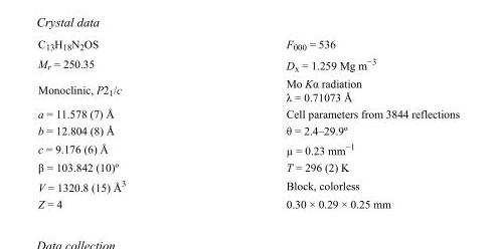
<table><tbody><tr><td>C<sub>13</sub>H<sub>18</sub>N<sub>2</sub>OS</td><td>F<sub>000</sub> = 536</td></tr><tr><td>M<sub>r</sub> = 250.35</td><td>D<sub>x</sub> = 1.259 Mg m<sup>−3</sup></td></tr><tr><td>Monoclinic, P2<sub>1</sub>/c</td><td>Mo Kα radiation λ = 0.71073 Å</td></tr><tr><td>a = 11.578 (7) Å</td><td>Cell parameters from 3844 reflections</td></tr><tr><td>b = 12.804 (8) Å</td><td>θ = 2.4–29.9º</td></tr><tr><td>c = 9.176 (6) Å</td><td>µ = 0.23 mm<sup>−1</sup></td></tr><tr><td>β = 103.842 (10)º</td><td>T = 296 (2) K</td></tr><tr><td>V = 1320.8 (15) Å<sup>3</sup></td><td>Block, colorless</td></tr><tr><td>Z = 4</td><td>0.30 × 0.29 × 0.25 mm</td></tr></tbody></table>